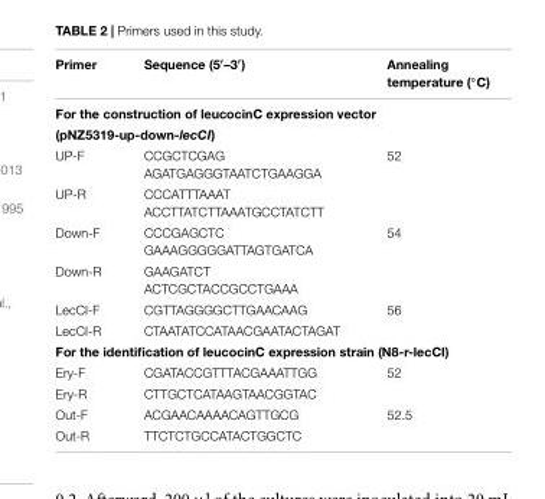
<table><thead><tr><td>Primer</td><td>Sequence (5′–3′)</td><td>Annealing temperature (◦C)</td></tr></thead><tbody><tr><td colspan="3">For the construction of leucocinC expression vector</td></tr><tr><td colspan="3">(pNZ5319-up-down-lecCI)</td></tr><tr><td>UP-F</td><td>CCGCTCGAG AGATGAGGGTAATCTGAAGGA</td><td>52</td></tr><tr><td>UP-R</td><td>CCCATTTAAAT ACCTTATCTTAAATGCCTATCTT</td><td></td></tr><tr><td>Down-F</td><td>CCCGAGCTC GAAAGGGGGATTAGTGATCA</td><td>54</td></tr><tr><td>Down-R</td><td>GAAGATCT ACTCGCTACCGCCTGAAA</td><td></td></tr><tr><td>LecCI-F</td><td>CGTTAGGGGCTTGAACAAG</td><td>56</td></tr><tr><td>LecCI-R</td><td>CTAATATCCATAACGAATACTAGAT</td><td></td></tr><tr><td colspan="3">For the identification of leucocinC expression strain (N8-r-lecCI)</td></tr><tr><td>Ery-F</td><td>CGATACCGTTTACGAAATTGG</td><td>52</td></tr><tr><td>Ery-R</td><td>CTTGCTCATAAGTAACGGTAC</td><td></td></tr><tr><td>Out-F</td><td>ACGAACAAAACAGTTGCG</td><td>52.5</td></tr><tr><td>Out-R</td><td>TTCTCTGCCATACTGGCTC</td><td></td></tr></tbody></table>